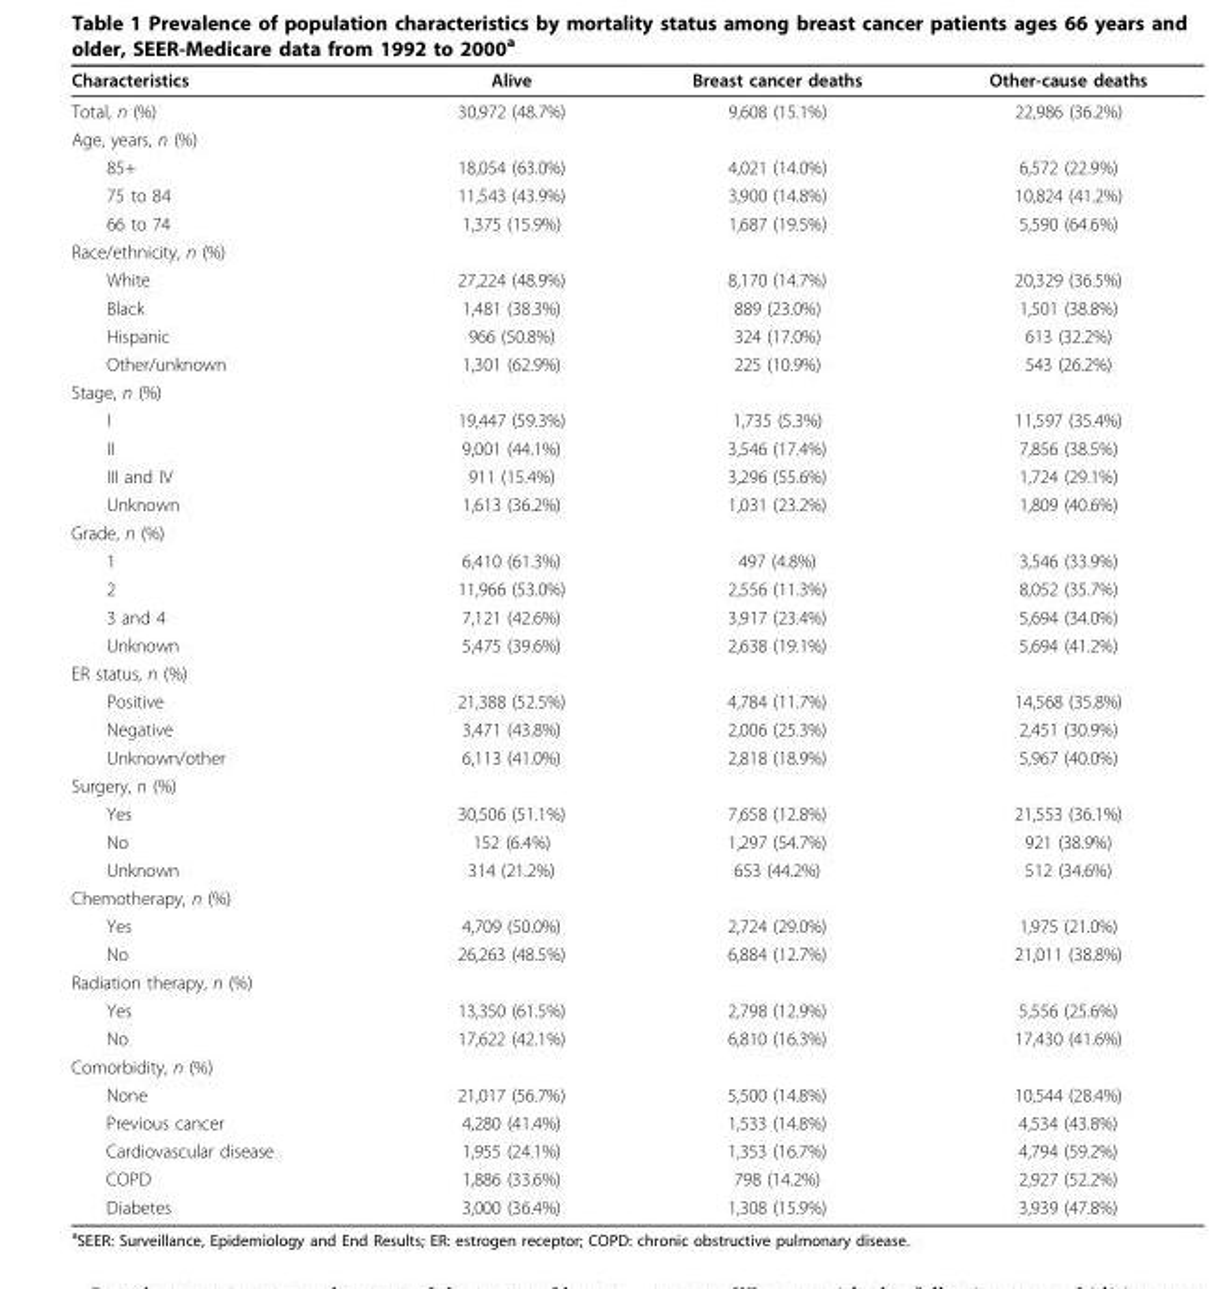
<table><thead><tr><td>Characteristics</td><td>Alive</td><td>Breast cancer deaths</td><td>Other-cause deaths</td></tr></thead><tbody><tr><td>Total, n (%)</td><td>30,972 (48.7%)</td><td>9,608 (15.1%)</td><td>22,986 (36.2%)</td></tr><tr><td colspan="4">Age, years, n (%)</td></tr><tr><td>85+</td><td>18,054 (63.0%)</td><td>4,021 (14.0%)</td><td>6,572 (22.9%)</td></tr><tr><td>75 to 84</td><td>11,543 (43.9%)</td><td>3,900 (14.8%)</td><td>10,824 (41.2%)</td></tr><tr><td>66 to 74</td><td>1,375 (15.9%)</td><td>1,687 (19.5%)</td><td>5,590 (64.6%)</td></tr><tr><td colspan="4">Race/ethnicity, n (%)</td></tr><tr><td>White</td><td>27,224 (48.9%)</td><td>8,170 (14.7%)</td><td>20,329 (36.5%)</td></tr><tr><td>Black</td><td>1,481 (38.3%)</td><td>889 (23.0%)</td><td>1,501 (38.8%)</td></tr><tr><td>Hispanic</td><td>966 (50.8%)</td><td>324 (17.0%)</td><td>613 (32.2%)</td></tr><tr><td>Other/unknown</td><td>1,301 (62.9%)</td><td>225 (10.9%)</td><td>543 (26.2%)</td></tr><tr><td colspan="4">Stage, n (%)</td></tr><tr><td>I</td><td>19,447 (59.3%)</td><td>1,735 (5.3%)</td><td>11,597 (35.4%)</td></tr><tr><td>II</td><td>9,001 (44.1%)</td><td>3,546 (17.4%)</td><td>7,856 (38.5%)</td></tr><tr><td>III and IV</td><td>911 (15.4%)</td><td>3,296 (55.6%)</td><td>1,724 (29.1%)</td></tr><tr><td>Unknown</td><td>1,613 (36.2%)</td><td>1,031 (23.2%)</td><td>1,809 (40.6%)</td></tr><tr><td colspan="4">Grade, n (%)</td></tr><tr><td>1</td><td>6,410 (61.3%)</td><td>497 (4.8%)</td><td>3,546 (33.9%)</td></tr><tr><td>2</td><td>11,966 (53.0%)</td><td>2,556 (11.3%)</td><td>8,052 (35.7%)</td></tr><tr><td>3 and 4</td><td>7,121 (42.6%)</td><td>3,917 (23.4%)</td><td>5,694 (34.0%)</td></tr><tr><td>Unknown</td><td>5,475 (39.6%)</td><td>2,638 (19.1%)</td><td>5,694 (41.2%)</td></tr><tr><td colspan="4">ER status, n (%)</td></tr><tr><td>Positive</td><td>21,388 (52.5%)</td><td>4,784 (11.7%)</td><td>14,568 (35.8%)</td></tr><tr><td>Negative</td><td>3,471 (43.8%)</td><td>2,006 (25.3%)</td><td>2,451 (30.9%)</td></tr><tr><td>Unknown/other</td><td>6,113 (41.0%)</td><td>2,818 (18.9%)</td><td>5,967 (40.0%)</td></tr><tr><td colspan="4">Surgery, n (%)</td></tr><tr><td>Yes</td><td>30,506 (51.1%)</td><td>7,658 (12.8%)</td><td>21,553 (36.1%)</td></tr><tr><td>No</td><td>152 (6.4%)</td><td>1,297 (54.7%)</td><td>921 (38.9%)</td></tr><tr><td>Unknown</td><td>314 (21.2%)</td><td>653 (44.2%)</td><td>512 (34.6%)</td></tr><tr><td colspan="4">Chemotherapy, n (%)</td></tr><tr><td>Yes</td><td>4,709 (50.0%)</td><td>2,724 (29.0%)</td><td>1,975 (21.0%)</td></tr><tr><td>No</td><td>26,263 (48.5%)</td><td>6,884 (12.7%)</td><td>21,011 (38.8%)</td></tr><tr><td colspan="4">Radiation therapy, n (%)</td></tr><tr><td>Yes</td><td>13,350 (61.5%)</td><td>2,798 (12.9%)</td><td>5,556 (25.6%)</td></tr><tr><td>No</td><td>17,622 (42.1%)</td><td>6,810 (16.3%)</td><td>17,430 (41.6%)</td></tr><tr><td colspan="4">Comorbidity, n (%)</td></tr><tr><td>None</td><td>21,017 (56.7%)</td><td>5,500 (14.8%)</td><td>10,544 (28.4%)</td></tr><tr><td>Previous cancer</td><td>4,280 (41.4%)</td><td>1,533 (14.8%)</td><td>4,534 (43.8%)</td></tr><tr><td>Cardiovascular disease</td><td>1,955 (24.1%)</td><td>1,353 (16.7%)</td><td>4,794 (59.2%)</td></tr><tr><td>COPD</td><td>1,886 (33.6%)</td><td>798 (14.2%)</td><td>2,927 (52.2%)</td></tr><tr><td>Diabetes</td><td>3,000 (36.4%)</td><td>1,308 (15.9%)</td><td>3,939 (47.8%)</td></tr></tbody></table>